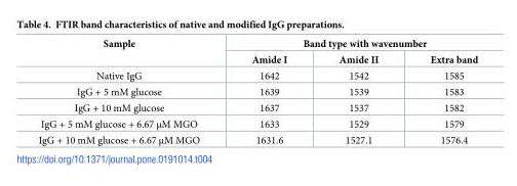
<table><thead><tr><td rowspan="2">Sample</td><td colspan="3">Band type with wavenumber</td></tr><tr><td>Amide I</td><td>Amide II</td><td>Extra band</td></tr></thead><tbody><tr><td>Native IgG</td><td>1642</td><td>1542</td><td>1585</td></tr><tr><td>IgG + 5 mM glucose</td><td>1639</td><td>1539</td><td>1583</td></tr><tr><td>IgG + 10 mM glucose</td><td>1637</td><td>1537</td><td>1582</td></tr><tr><td>IgG + 5 mM glucose + 6.67 μM MGO</td><td>1633</td><td>1529</td><td>1579</td></tr><tr><td>IgG + 10 mM glucose + 6.67 μM MGO</td><td>1631.6</td><td>1527.1</td><td>1576.4</td></tr></tbody></table>